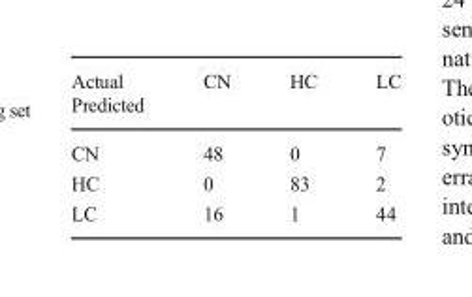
<table><thead><tr><td rowspan="2">Actual Predicted</td><td rowspan="2">CN</td><td rowspan="2">HC</td><td rowspan="2">LC</td></tr><tr></tr></thead><tbody><tr><td>CN</td><td>48</td><td>0</td><td>7</td></tr><tr><td>HC</td><td>0</td><td>83</td><td>2</td></tr><tr><td>LC</td><td>16</td><td>1</td><td>44</td></tr></tbody></table>